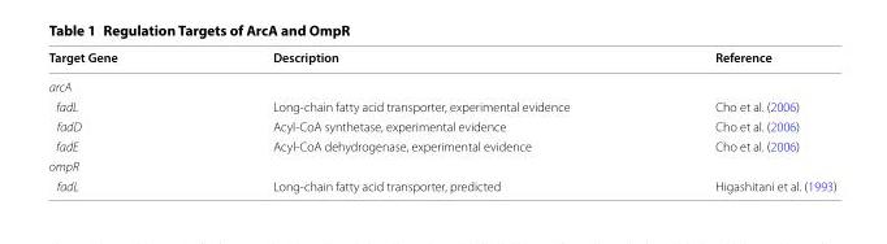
<table><thead><tr><td>Target Gene</td><td>Description</td><td>Reference</td></tr></thead><tbody><tr><td colspan="3">arcA</td></tr><tr><td>fadL</td><td>Long-chain fatty acid transporter, experimental evidence</td><td>Cho et al. (2006)</td></tr><tr><td>fadD</td><td>Acyl-CoA synthetase, experimental evidence</td><td>Cho et al. (2006)</td></tr><tr><td>fadE</td><td>Acyl-CoA dehydrogenase, experimental evidence</td><td>Cho et al. (2006)</td></tr><tr><td colspan="3">ompR</td></tr><tr><td>fadL</td><td>Long-chain fatty acid transporter, predicted</td><td>Higashitani et al. (1993)</td></tr></tbody></table>